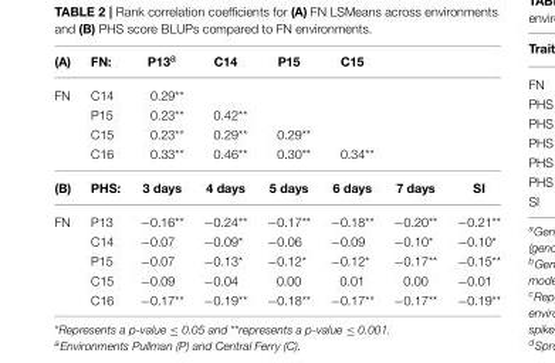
<table><thead><tr><td>(A)</td><td>FN:</td><td>P13<sup>a</sup></td><td>C14</td><td>P15</td><td>C15</td><td></td><td></td></tr></thead><tbody><tr><td rowspan="4">FN</td><td>C14</td><td>0.29**</td><td></td><td></td><td></td><td></td><td></td></tr><tr><td>P15</td><td>0.23**</td><td>0.42**</td><td></td><td></td><td></td><td></td></tr><tr><td>C15</td><td>0.23**</td><td>0.29**</td><td>0.29**</td><td></td><td></td><td></td></tr><tr><td>C16</td><td>0.33**</td><td>0.46**</td><td>0.30**</td><td>0.34**</td><td></td><td></td></tr><tr><td>(B)</td><td>PHS:</td><td>3 days</td><td>4 days</td><td>5 days</td><td>6 days</td><td>7 days</td><td>SI</td></tr><tr><td rowspan="5">FN</td><td>P13</td><td>−0.16**</td><td>−0.24**</td><td>−0.17**</td><td>−0.18**</td><td>−0.20**</td><td>−0.21**</td></tr><tr><td>C14</td><td>−0.07</td><td>−0.09*</td><td>−0.06</td><td>−0.09</td><td>−0.10*</td><td>−0.10*</td></tr><tr><td>P15</td><td>−0.07</td><td>−0.13*</td><td>−0.12*</td><td>−0.12*</td><td>−0.17**</td><td>−0.15**</td></tr><tr><td>C15</td><td>−0.09</td><td>−0.04</td><td>0.00</td><td>0.01</td><td>0.00</td><td>−0.01</td></tr><tr><td>C16</td><td>−0.17**</td><td>−0.19**</td><td>−0.18**</td><td>−0.17**</td><td>−0.17**</td><td>−0.19**</td></tr></tbody></table>